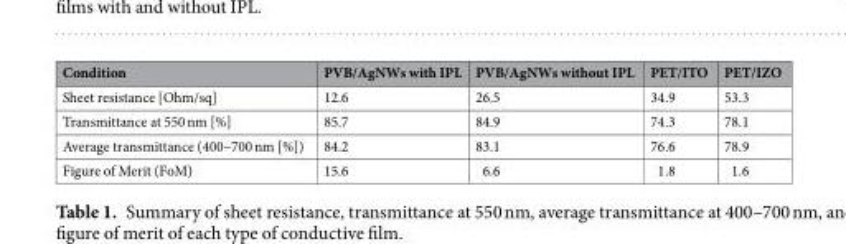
<table><thead><tr><td>Condition</td><td>PVB/AgNWs with IPL</td><td>PVB/AgNWs without IPL</td><td>PET/ITO</td><td>PET/IZO</td></tr></thead><tbody><tr><td>Sheet resistance [Ohm/sq]</td><td>12.6</td><td>26.5</td><td>34.9</td><td>53.3</td></tr><tr><td>Transmittance at 550 nm [%]</td><td>85.7</td><td>84.9</td><td>74.3</td><td>78.1</td></tr><tr><td>Average transmittance (400–700 nm [%])</td><td>84.2</td><td>83.1</td><td>76.6</td><td>78.9</td></tr><tr><td>Figure of Merit (FoM)</td><td>15.6</td><td>6.6</td><td>1.8</td><td>1.6</td></tr></tbody></table>